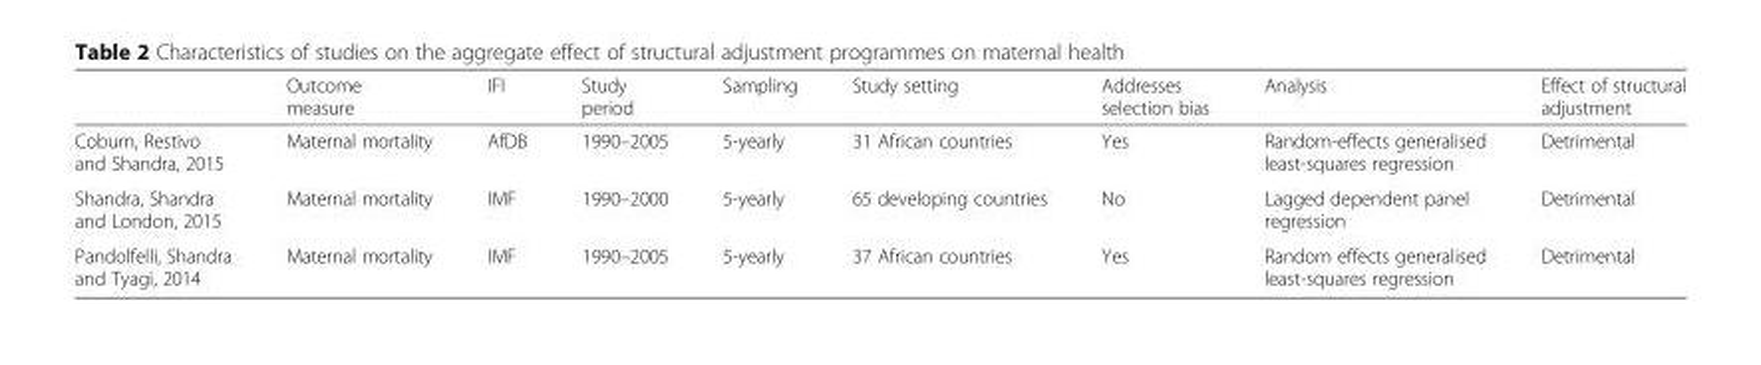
<table><thead><tr><td></td><td>Outcome measure</td><td>IFI</td><td>Study period</td><td>Sampling</td><td>Study setting</td><td>Addresses selection bias</td><td>Analysis</td><td>Effect of structural adjustment</td></tr></thead><tbody><tr><td>Coburn, Restivo and Shandra, 2015</td><td>Maternal mortality</td><td>AfDB</td><td>1990–2005</td><td>5-yearly</td><td>31 African countries</td><td>Yes</td><td>Random-effects generalised least-squares regression</td><td>Detrimental</td></tr><tr><td>Shandra, Shandra and London, 2015</td><td>Maternal mortality</td><td>IMF</td><td>1990–2000</td><td>5-yearly</td><td>65 developing countries</td><td>No</td><td>Lagged dependent panel regression</td><td>Detrimental</td></tr><tr><td>Pandolfelli, Shandra and Tyagi, 2014</td><td>Maternal mortality</td><td>IMF</td><td>1990–2005</td><td>5-yearly</td><td>37 African countries</td><td>Yes</td><td>Random effects generalised least-squares regression</td><td>Detrimental</td></tr></tbody></table>